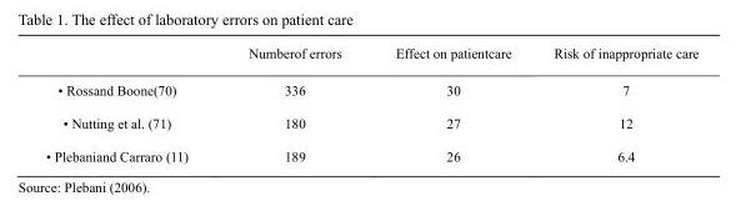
<table><thead><tr><td></td><td>Numberof errors</td><td>Effect on patientcare</td><td>Risk of inappropriate care</td></tr></thead><tbody><tr><td>• Rossand Boone(70)</td><td>336</td><td>30</td><td>7</td></tr><tr><td>• Nutting et al. (71)</td><td>180</td><td>27</td><td>12</td></tr><tr><td>• Plebaniand Carraro (11)</td><td>189</td><td>26</td><td>6.4</td></tr></tbody></table>